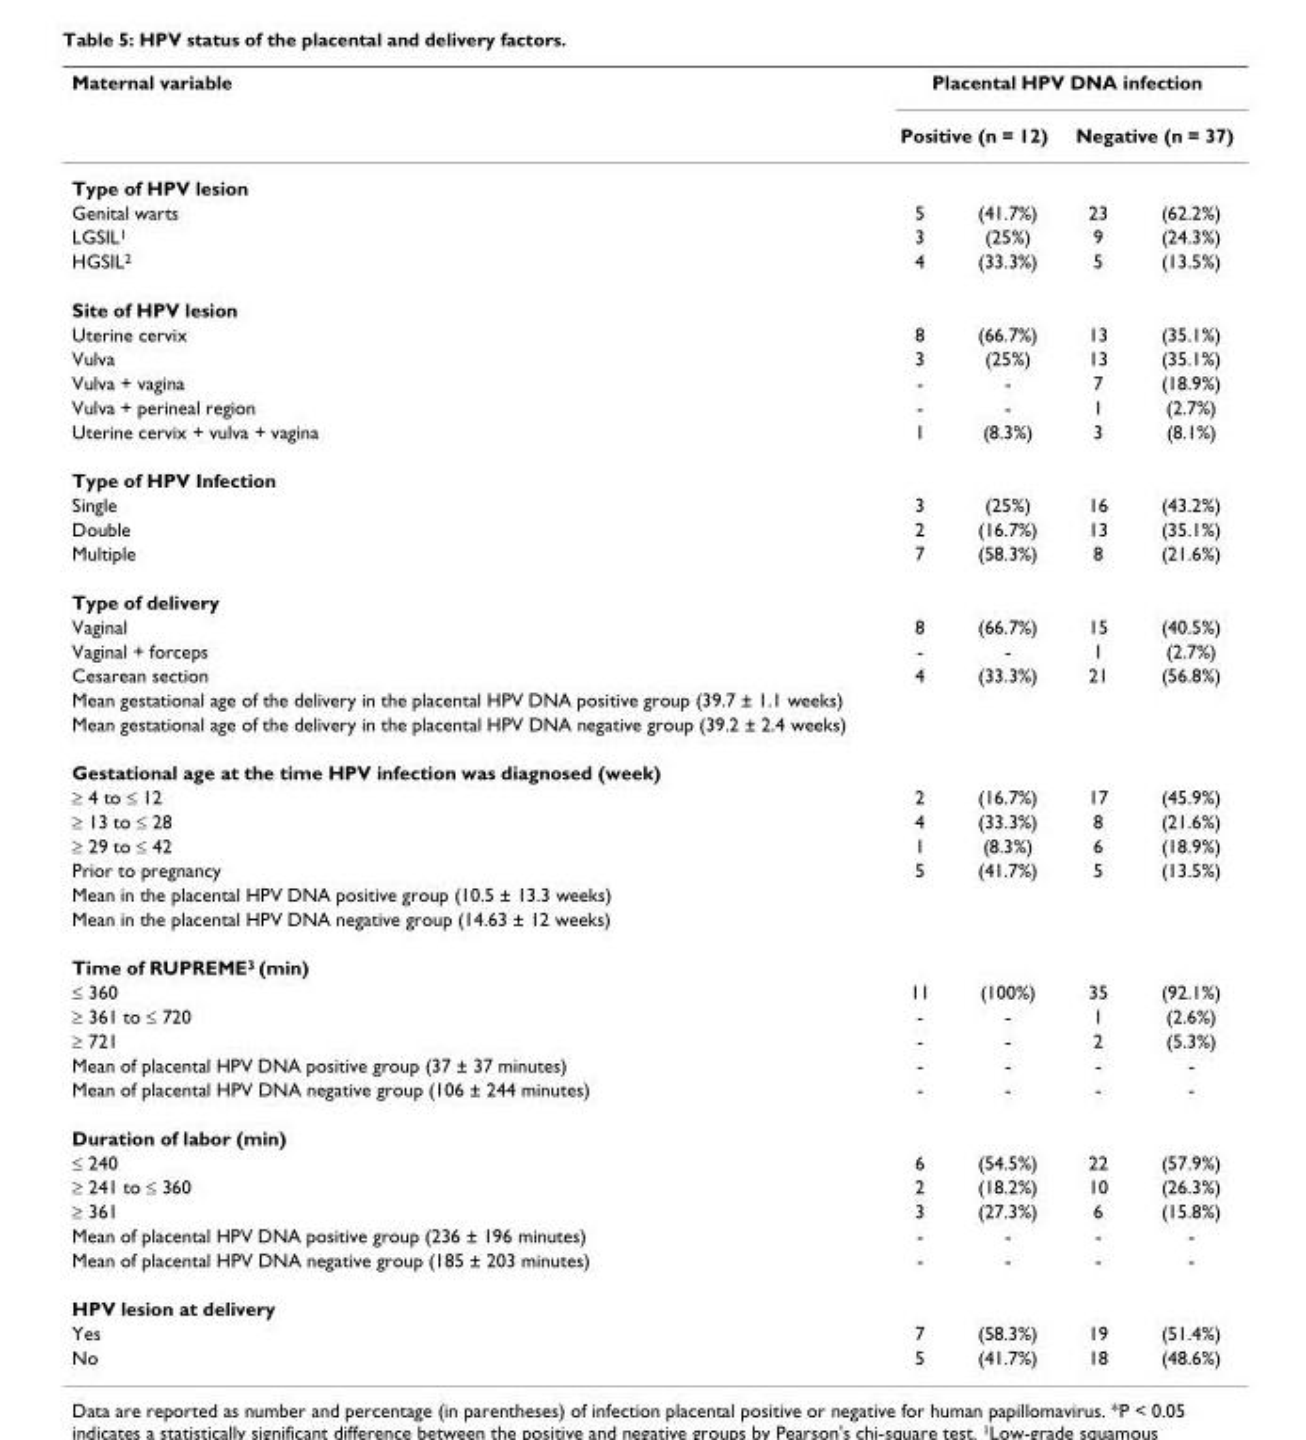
<table><thead><tr><td rowspan="3">Maternal variable Type of HPV lesion</td><td colspan="4">Placental HPV DNA infection</td></tr><tr><td colspan="2">Positive (n = 12)</td><td colspan="2">Negative (n = 37)</td></tr><tr><td></td><td></td><td></td><td></td></tr></thead><tbody><tr><td>Genital warts</td><td>5</td><td>(41.7%)</td><td>23</td><td>(62.2%)</td></tr><tr><td>LGSIL<sup>1</sup></td><td>3</td><td>(25%)</td><td>9</td><td>(24.3%)</td></tr><tr><td>HGSIL<sup>2</sup></td><td>4</td><td>(33.3%)</td><td>5</td><td>(13.5%)</td></tr><tr><td colspan="5">Site of HPV lesion</td></tr><tr><td>Uterine cervix</td><td>8</td><td>(66.7%)</td><td>13</td><td>(35.1%)</td></tr><tr><td>Vulva</td><td>3</td><td>(25%)</td><td>13</td><td>(35.1%)</td></tr><tr><td>Vulva + vagina</td><td>-</td><td>-</td><td>7</td><td>(18.9%)</td></tr><tr><td>Vulva + perineal region</td><td>-</td><td>-</td><td>1</td><td>(2.7%)</td></tr><tr><td>Uterine cervix + vulva + vagina</td><td>1</td><td>(8.3%)</td><td>3</td><td>(8.1%)</td></tr><tr><td colspan="5">Type of HPV Infection</td></tr><tr><td>Single</td><td>3</td><td>(25%)</td><td>16</td><td>(43.2%)</td></tr><tr><td>Double</td><td>2</td><td>(16.7%)</td><td>13</td><td>(35.1%)</td></tr><tr><td>Multiple</td><td>7</td><td>(58.3%)</td><td>8</td><td>(21.6%)</td></tr><tr><td colspan="5">Type of delivery</td></tr><tr><td>Vaginal</td><td>8</td><td>(66.7%)</td><td>15</td><td>(40.5%)</td></tr><tr><td>Vaginal + forceps</td><td>-</td><td>-</td><td>1</td><td>(2.7%)</td></tr><tr><td>Cesarean section</td><td>4</td><td>(33.3%)</td><td>21</td><td>(56.8%)</td></tr><tr><td colspan="5">Mean gestational age of the delivery in the placental HPV DNA positive group (39.7 ± 1.1 weeks)</td></tr><tr><td colspan="5">Mean gestational age of the delivery in the placental HPV DNA negative group (39.2 ± 2.4 weeks)</td></tr><tr><td colspan="5">Gestational age at the time HPV infection was diagnosed (week)</td></tr><tr><td>≥ 4 to ≤ 12</td><td>2</td><td>(16.7%)</td><td>17</td><td>(45.9%)</td></tr><tr><td>≥ 13 to ≤ 28</td><td>4</td><td>(33.3%)</td><td>8</td><td>(21.6%)</td></tr><tr><td>≥ 29 to ≤ 42</td><td>1</td><td>(8.3%)</td><td>6</td><td>(18.9%)</td></tr><tr><td>Prior to pregnancy</td><td>5</td><td>(41.7%)</td><td>5</td><td>(13.5%)</td></tr><tr><td colspan="5">Mean in the placental HPV DNA positive group (10.5 ± 13.3 weeks)</td></tr><tr><td colspan="5">Mean in the placental HPV DNA negative group (14.63 ± 12 weeks)</td></tr><tr><td colspan="5">Time of RUPREME<sup>3</sup> (min)</td></tr><tr><td>≤ 360</td><td>11</td><td>(100%)</td><td>35</td><td>(92.1%)</td></tr><tr><td>≥ 361 to ≤ 720</td><td>-</td><td>-</td><td>1</td><td>(2.6%)</td></tr><tr><td>≥ 721</td><td>-</td><td>-</td><td>2</td><td>(5.3%)</td></tr><tr><td>Mean of placental HPV DNA positive group (37 ± 37 minutes)</td><td>-</td><td>-</td><td>-</td><td>-</td></tr><tr><td>Mean of placental HPV DNA negative group (106 ± 244 minutes)</td><td>-</td><td>-</td><td>-</td><td>-</td></tr><tr><td colspan="5">Duration of labor (min)</td></tr><tr><td>≤ 240</td><td>6</td><td>(54.5%)</td><td>22</td><td>(57.9%)</td></tr><tr><td>≥ 241 to ≤ 360</td><td>2</td><td>(18.2%)</td><td>10</td><td>(26.3%)</td></tr><tr><td>≥ 361</td><td>3</td><td>(27.3%)</td><td>6</td><td>(15.8%)</td></tr><tr><td>Mean of placental HPV DNA positive group (236 ± 196 minutes)</td><td>-</td><td>-</td><td>-</td><td>-</td></tr><tr><td>Mean of placental HPV DNA negative group (185 ± 203 minutes)</td><td>-</td><td>-</td><td>-</td><td>-</td></tr><tr><td colspan="5">HPV lesion at delivery</td></tr><tr><td>Yes</td><td>7</td><td>(58.3%)</td><td>19</td><td>(51.4%)</td></tr><tr><td>No</td><td>5</td><td>(41.7%)</td><td>18</td><td>(48.6%)</td></tr></tbody></table>